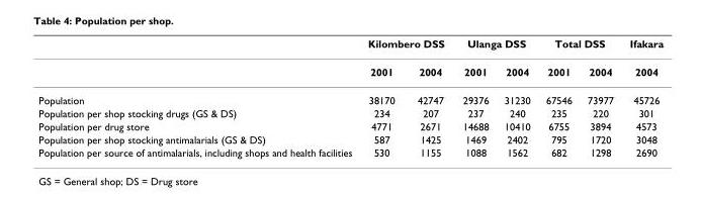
<table><thead><tr><td rowspan="2"></td><td colspan="2">Kilombero DSS</td><td colspan="2">Ulanga DSS</td><td colspan="2">Total DSS</td><td rowspan="2">Ifakara 2004</td></tr><tr><td>2001</td><td>2004</td><td>2001</td><td>2004</td><td>2001</td><td>2004</td></tr></thead><tbody><tr><td>Population</td><td>38170</td><td>42747</td><td>29376</td><td>31230</td><td>67546</td><td>73977</td><td>45726</td></tr><tr><td>Population per shop stocking drugs (GS &amp; DS)</td><td>234</td><td>207</td><td>237</td><td>240</td><td>235</td><td>220</td><td>301</td></tr><tr><td>Population per drug store</td><td>4771</td><td>2671</td><td>14688</td><td>10410</td><td>6755</td><td>3894</td><td>4573</td></tr><tr><td>Population per shop stocking antimalarials (GS &amp; DS)</td><td>587</td><td>1425</td><td>1469</td><td>2402</td><td>795</td><td>1720</td><td>3048</td></tr><tr><td>Population per source of antimalarials, including shops and health facilities</td><td>530</td><td>1155</td><td>1088</td><td>1562</td><td>682</td><td>1298</td><td>2690</td></tr></tbody></table>